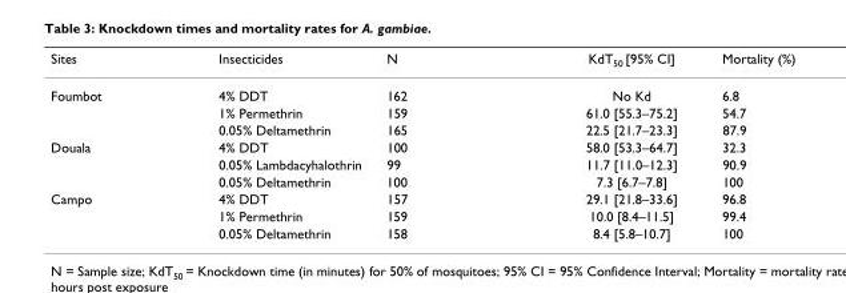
<table><thead><tr><td>Sites</td><td>Insecticides</td><td>N</td><td>KdT<sub>50</sub> [95% CI]</td><td>Mortality (%)</td></tr></thead><tbody><tr><td rowspan="3">Foumbot</td><td>4% DDT</td><td>162</td><td>No Kd</td><td>6.8</td></tr><tr><td>1% Permethrin</td><td>159</td><td>61.0 [55.3–75.2]</td><td>54.7</td></tr><tr><td>0.05% Deltamethrin</td><td>165</td><td>22.5 [21.7–23.3]</td><td>87.9</td></tr><tr><td rowspan="3">Douala</td><td>4% DDT</td><td>100</td><td>58.0 [53.3–64.7]</td><td>32.3</td></tr><tr><td>0.05% Lambdacyhalothrin</td><td>99</td><td>11.7 [11.0–12.3]</td><td>90.9</td></tr><tr><td>0.05% Deltamethrin</td><td>100</td><td>7.3 [6.7–7.8]</td><td>100</td></tr><tr><td rowspan="3">Campo</td><td>4% DDT</td><td>157</td><td>29.1 [21.8–33.6]</td><td>96.8</td></tr><tr><td>1% Permethrin</td><td>159</td><td>10.0 [8.4–11.5]</td><td>99.4</td></tr><tr><td>0.05% Deltamethrin</td><td>158</td><td>8.4 [5.8–10.7]</td><td>100</td></tr></tbody></table>